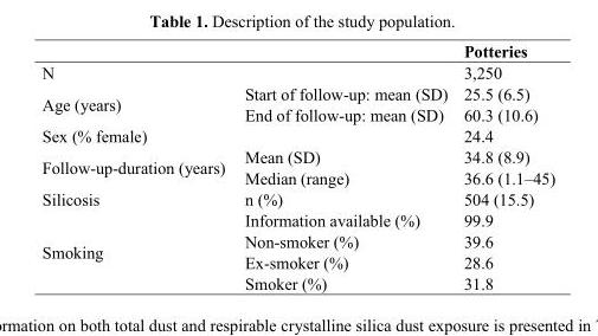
<table><thead><tr><td></td><td></td><td>Potteries</td></tr></thead><tbody><tr><td>N</td><td></td><td>3,250</td></tr><tr><td rowspan="2">Age (years)</td><td>Start of follow-up: mean (SD)</td><td>25.5 (6.5)</td></tr><tr><td>End of follow-up: mean (SD)</td><td>60.3 (10.6)</td></tr><tr><td>Sex (% female)</td><td></td><td>24.4</td></tr><tr><td rowspan="2">Follow-up-duration (years)</td><td>Mean (SD)</td><td>34.8 (8.9)</td></tr><tr><td>Median (range)</td><td>36.6 (1.1–45)</td></tr><tr><td>Silicosis</td><td>n (%)</td><td>504 (15.5)</td></tr><tr><td rowspan="4">Smoking</td><td>Information available (%)</td><td>99.9</td></tr><tr><td>Non-smoker (%)</td><td>39.6</td></tr><tr><td>Ex-smoker (%)</td><td>28.6</td></tr><tr><td>Smoker (%)</td><td>31.8</td></tr></tbody></table>